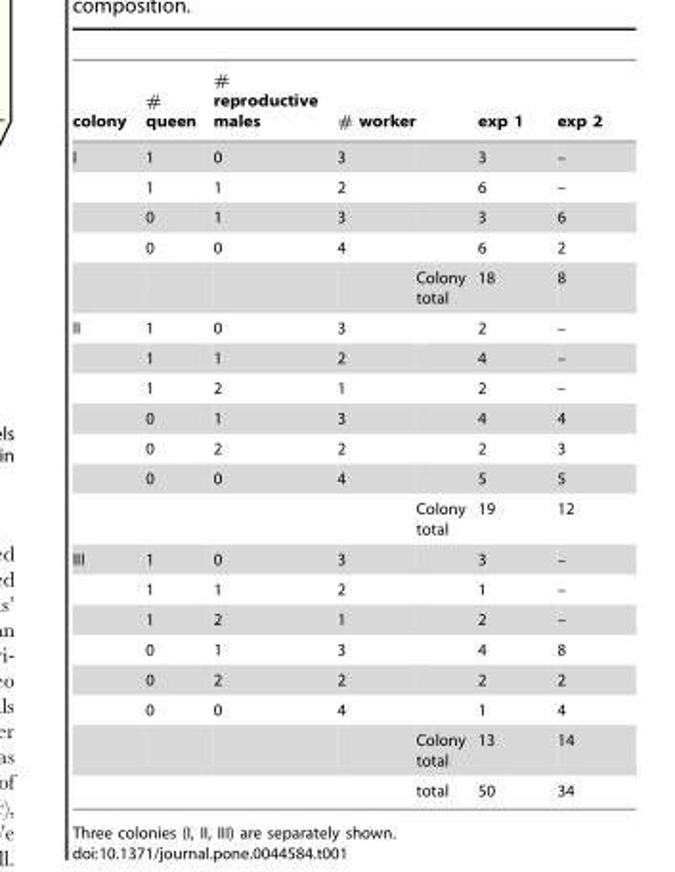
<table><thead><tr><td>colony</td><td># queen</td><td># reproductive males</td><td># worker</td><td></td><td>exp 1</td><td>exp 2</td></tr></thead><tbody><tr><td rowspan="5">I</td><td>1</td><td>0</td><td>3</td><td></td><td>3</td><td>–</td></tr><tr><td>1</td><td>1</td><td>2</td><td></td><td>6</td><td>–</td></tr><tr><td>0</td><td>1</td><td>3</td><td></td><td>3</td><td>6</td></tr><tr><td>0</td><td>0</td><td>4</td><td></td><td>6</td><td>2</td></tr><tr><td></td><td></td><td></td><td>Colony total</td><td>18</td><td>8</td></tr><tr><td rowspan="7">II</td><td>1</td><td>0</td><td>3</td><td></td><td>2</td><td>–</td></tr><tr><td>1</td><td>1</td><td>2</td><td></td><td>4</td><td>–</td></tr><tr><td>1</td><td>2</td><td>1</td><td></td><td>2</td><td>–</td></tr><tr><td>0</td><td>1</td><td>3</td><td></td><td>4</td><td>4</td></tr><tr><td>0</td><td>2</td><td>2</td><td></td><td>2</td><td>3</td></tr><tr><td>0</td><td>0</td><td>4</td><td></td><td>5</td><td>5</td></tr><tr><td></td><td></td><td></td><td>Colony total</td><td>19</td><td>12</td></tr><tr><td rowspan="8">III</td><td>1</td><td>0</td><td>3</td><td></td><td>3</td><td>–</td></tr><tr><td>1</td><td>1</td><td>2</td><td></td><td>1</td><td>–</td></tr><tr><td>1</td><td>2</td><td>1</td><td></td><td>2</td><td>–</td></tr><tr><td>0</td><td>1</td><td>3</td><td></td><td>4</td><td>8</td></tr><tr><td>0</td><td>2</td><td>2</td><td></td><td>2</td><td>2</td></tr><tr><td>0</td><td>0</td><td>4</td><td></td><td>1</td><td>4</td></tr><tr><td></td><td></td><td></td><td>Colony total</td><td>13</td><td>14</td></tr><tr><td></td><td></td><td></td><td>total</td><td>50</td><td>34</td></tr></tbody></table>